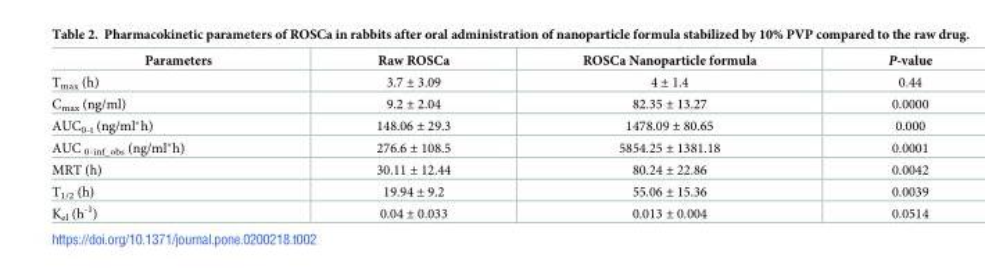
<table><thead><tr><td>Parameters</td><td>Raw ROSCa</td><td>ROSCa Nanoparticle formula</td><td>P-value</td></tr></thead><tbody><tr><td>T<sub>max</sub> (h)</td><td>3.7 ± 3.09</td><td>4 ± 1.4</td><td>0.44</td></tr><tr><td>C<sub>max</sub> (ng/ml)</td><td>9.2 ± 2.04</td><td>82.35 ± 13.27</td><td>0.0000</td></tr><tr><td>AUC<sub>0-t</sub> (ng/ml*h)</td><td>148.06 ± 29.3</td><td>1478.09 ± 80.65</td><td>0.000</td></tr><tr><td>AUC <sub>0-inf_obs</sub> (ng/ml*h)</td><td>276.6 ± 108.5</td><td>5854.25 ± 1381.18</td><td>0.0001</td></tr><tr><td>MRT (h)</td><td>30.11 ± 12.44</td><td>80.24 ± 22.86</td><td>0.0042</td></tr><tr><td>T<sub>1/2</sub> (h)</td><td>19.94 ± 9.2</td><td>55.06 ± 15.36</td><td>0.0039</td></tr><tr><td>K<sub>el</sub> (h<sup>-1</sup>)</td><td>0.04 ± 0.033</td><td>0.013 ± 0.004</td><td>0.0514</td></tr></tbody></table>